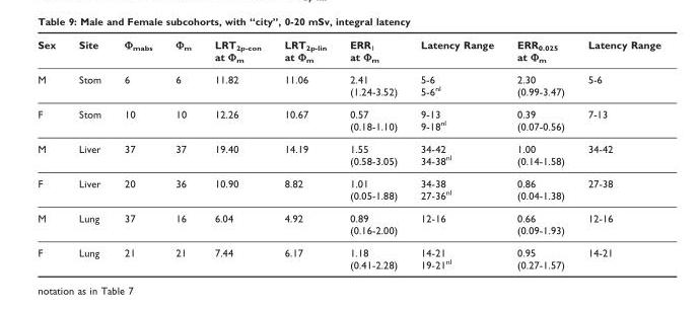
<table><thead><tr><td>Sex</td><td>Site</td><td>Φ<sub>mabs</sub></td><td>Φ<sub>m</sub></td><td>LRT<sub>2p-con</sub> at Φ<sub>m</sub></td><td>LRT<sub>2p-lin</sub> at Φ<sub>m</sub></td><td>ERR<sub>1</sub> at Φ<sub>m</sub></td><td>Latency Range</td><td>ERR<sub>0.025</sub> at Φ<sub>m</sub></td><td>Latency Range</td></tr></thead><tbody><tr><td>M</td><td>Stom</td><td>6</td><td>6</td><td>11.82</td><td>11.06</td><td>2.41 (1.24-3.52)</td><td>5-6 5-6<sup>nl</sup></td><td>2.30 (0.99-3.47)</td><td>5-6</td></tr><tr><td>F</td><td>Stom</td><td>10</td><td>10</td><td>12.26</td><td>10.67</td><td>0.57 (0.18-1.10)</td><td>9-13 9-18<sup>nl</sup></td><td>0.39 (0.07-0.56)</td><td>7-13</td></tr><tr><td>M</td><td>Liver</td><td>37</td><td>37</td><td>19.40</td><td>14.19</td><td>1.55 (0.58-3.05)</td><td>34-42 34-38<sup>nl</sup></td><td>1.00 (0.14-1.58)</td><td>34-42</td></tr><tr><td>F</td><td>Liver</td><td>20</td><td>36</td><td>10.90</td><td>8.82</td><td>1.01 (0.05-1.88)</td><td>34-38 27-36<sup>nl</sup></td><td>0.86 (0.04-1.38)</td><td>27-38</td></tr><tr><td>M</td><td>Lung</td><td>37</td><td>16</td><td>6.04</td><td>4.92</td><td>0.89 (0.16-2.00)</td><td>12-16</td><td>0.66 (0.09-1.93)</td><td>12-16</td></tr><tr><td>F</td><td>Lung</td><td>21</td><td>21</td><td>7.44</td><td>6.17</td><td>1.18 (0.41-2.28)</td><td>14-21 19-21<sup>nl</sup></td><td>0.95 (0.27-1.57)</td><td>14-21</td></tr></tbody></table>